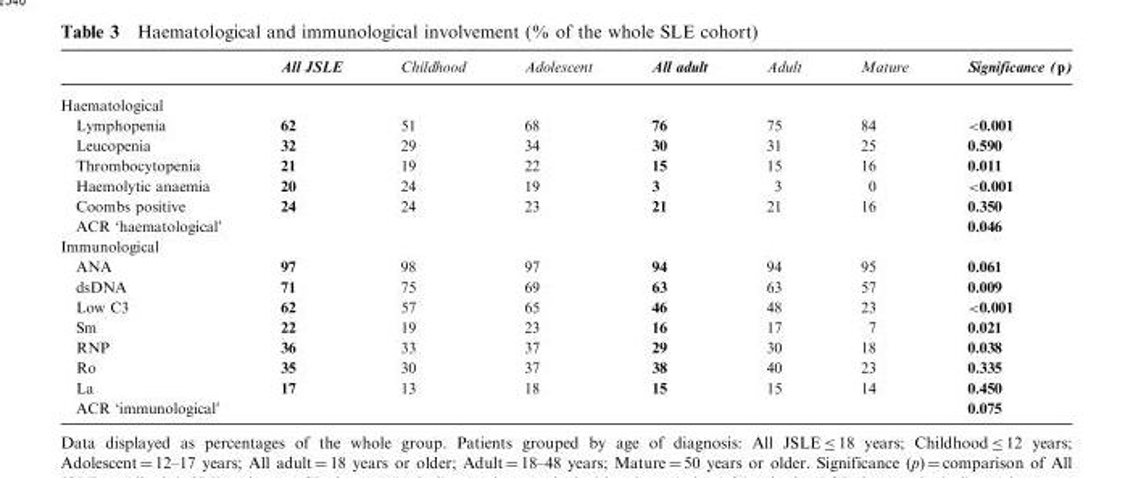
<table><thead><tr><td></td><td>All JSLE</td><td>Childhood</td><td>Adolescent</td><td>All adult</td><td>Adult</td><td>Mature</td><td>Significance (p)</td></tr></thead><tbody><tr><td colspan="8">Haematological</td></tr><tr><td>Lymphopenia</td><td>62</td><td>51</td><td>68</td><td>76</td><td>75</td><td>84</td><td>&lt;0.001</td></tr><tr><td>Leucopenia</td><td>32</td><td>29</td><td>34</td><td>30</td><td>31</td><td>25</td><td>0.590</td></tr><tr><td>Thrombocytopenia</td><td>21</td><td>19</td><td>22</td><td>15</td><td>15</td><td>16</td><td>0.011</td></tr><tr><td>Haemolytic anaemia</td><td>20</td><td>24</td><td>19</td><td>3</td><td>3</td><td>0</td><td>&lt;0.001</td></tr><tr><td>Coombs positive</td><td>24</td><td>24</td><td>23</td><td>21</td><td>21</td><td>16</td><td>0.350</td></tr><tr><td>ACR ‘haematological’</td><td></td><td></td><td></td><td></td><td></td><td></td><td>0.046</td></tr><tr><td colspan="8">Immunological</td></tr><tr><td>ANA</td><td>97</td><td>98</td><td>97</td><td>94</td><td>94</td><td>95</td><td>0.061</td></tr><tr><td>dsDNA</td><td>71</td><td>75</td><td>69</td><td>63</td><td>63</td><td>57</td><td>0.009</td></tr><tr><td>Low C3</td><td>62</td><td>57</td><td>65</td><td>46</td><td>48</td><td>23</td><td>&lt;0.001</td></tr><tr><td>Sm</td><td>22</td><td>19</td><td>23</td><td>16</td><td>17</td><td>7</td><td>0.021</td></tr><tr><td>RNP</td><td>36</td><td>33</td><td>37</td><td>29</td><td>30</td><td>18</td><td>0.038</td></tr><tr><td>Ro</td><td>35</td><td>30</td><td>37</td><td>38</td><td>40</td><td>23</td><td>0.335</td></tr><tr><td>La</td><td>17</td><td>13</td><td>18</td><td>15</td><td>15</td><td>14</td><td>0.450</td></tr><tr><td>ACR ‘immunological’</td><td></td><td></td><td></td><td></td><td></td><td></td><td>0.075</td></tr></tbody></table>